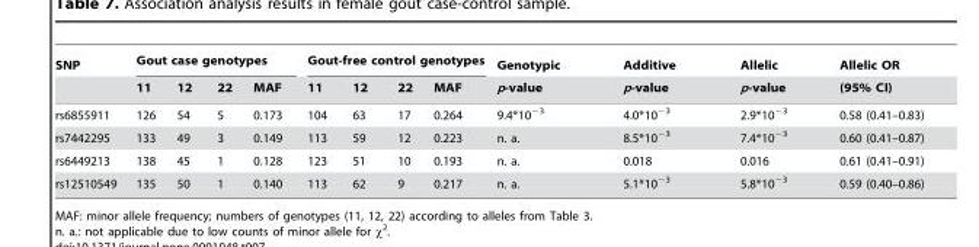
<table><thead><tr><td rowspan="2">SNP</td><td colspan="4">Gout case genotypes</td><td colspan="4">Gout-free control genotypes</td><td rowspan="2">Genotypic p-value</td><td rowspan="2">Additive p-value</td><td rowspan="2">Allelic p-value</td><td rowspan="2">Allelic OR (95% CI)</td></tr><tr><td>11</td><td>12</td><td>22</td><td>MAF</td><td>11</td><td>12</td><td>22</td><td>MAF</td></tr></thead><tbody><tr><td>rs6855911</td><td>126</td><td>54</td><td>5</td><td>0.173</td><td>104</td><td>63</td><td>17</td><td>0.264</td><td>9.4*10<sup>−3</sup></td><td>4.0*10<sup>−3</sup></td><td>2.9*10<sup>−3</sup></td><td>0.58 (0.41–0.83)</td></tr><tr><td>rs7442295</td><td>133</td><td>49</td><td>3</td><td>0.149</td><td>113</td><td>59</td><td>12</td><td>0.223</td><td>n. a.</td><td>8.5*10<sup>−3</sup></td><td>7.4*10<sup>−3</sup></td><td>0.60 (0.41–0.87)</td></tr><tr><td>rs6449213</td><td>138</td><td>45</td><td>1</td><td>0.128</td><td>123</td><td>51</td><td>10</td><td>0.193</td><td>n. a.</td><td>0.018</td><td>0.016</td><td>0.61 (0.41–0.91)</td></tr><tr><td>rs12510549</td><td>135</td><td>50</td><td>1</td><td>0.140</td><td>113</td><td>62</td><td>9</td><td>0.217</td><td>n. a.</td><td>5.1*10<sup>−3</sup></td><td>5.8*10<sup>−3</sup></td><td>0.59 (0.40–0.86)</td></tr></tbody></table>